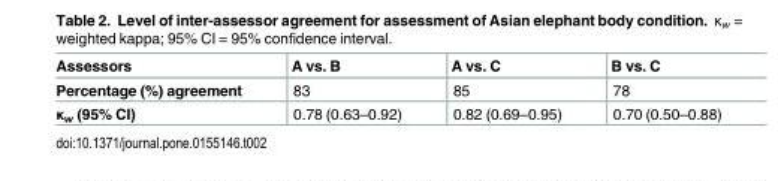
<table><thead><tr><td>Assessors</td><td>A vs. B</td><td>A vs. C</td><td>B vs. C</td></tr></thead><tbody><tr><td>Percentage (%) agreement</td><td>83</td><td>85</td><td>78</td></tr><tr><td>κ<sub>w</sub> (95% CI)</td><td>0.78 (0.63–0.92)</td><td>0.82 (0.69–0.95)</td><td>0.70 (0.50–0.88)</td></tr></tbody></table>